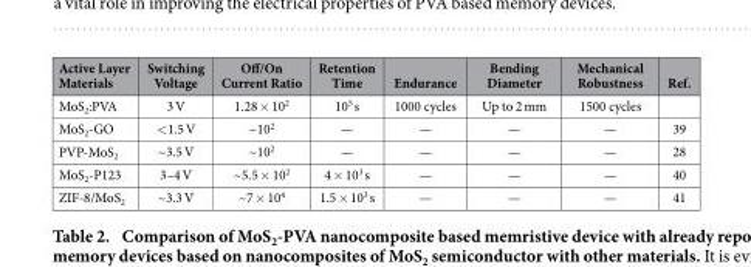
<table><thead><tr><td>Active Layer Materials</td><td>Switching Voltage</td><td>Off/On Current Ratio</td><td>Retention Time</td><td>Endurance</td><td>Bending Diameter</td><td>Mechanical Robustness</td><td>Ref.</td></tr></thead><tbody><tr><td>MoS<sub>2</sub>:PVA</td><td>3 V</td><td>1.28 × 10<sup>2</sup></td><td>10<sup>5</sup> s</td><td>1000 cycles</td><td>Up to 2 mm</td><td>1500 cycles</td><td></td></tr><tr><td>MoS<sub>2</sub>-GO</td><td>&lt; 1.5 V</td><td>~10<sup>2</sup></td><td>—</td><td>—</td><td>—</td><td>—</td><td>39</td></tr><tr><td>PVP-MoS<sub>2</sub></td><td>~3.5 V</td><td>~10<sup>2</sup></td><td>—</td><td>—</td><td>—</td><td>—</td><td>28</td></tr><tr><td>MoS<sub>2</sub>-P123</td><td>3–4 V</td><td>~5.5 × 10<sup>2</sup></td><td>4 × 10<sup>3</sup> s</td><td>—</td><td>—</td><td>—</td><td>40</td></tr><tr><td>ZIF-8/MoS<sub>2</sub></td><td>~3.3 V</td><td>~7 × 10<sup>4</sup></td><td>1.5 × 10<sup>3</sup> s</td><td>—</td><td>—</td><td>—</td><td>41</td></tr></tbody></table>